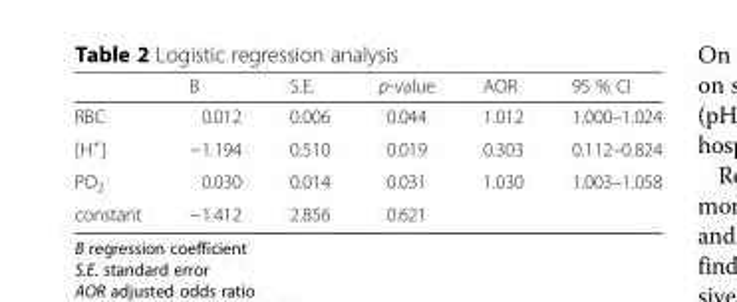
<table><thead><tr><td></td><td>B</td><td>S.E.</td><td>p-value</td><td>AOR</td><td>95 % CI</td></tr></thead><tbody><tr><td>RBC</td><td>0.012</td><td>0.006</td><td>0.044</td><td>1.012</td><td>1.000–1.024</td></tr><tr><td>[H<sup>+</sup>]</td><td>−1.194</td><td>0.510</td><td>0.019</td><td>0.303</td><td>0.112–0.824</td></tr><tr><td>PO<sub>2</sub></td><td>0.030</td><td>0.014</td><td>0.031</td><td>1.030</td><td>1.003–1.058</td></tr><tr><td>constant</td><td>−1.412</td><td>2.856</td><td>0.621</td><td></td><td></td></tr></tbody></table>